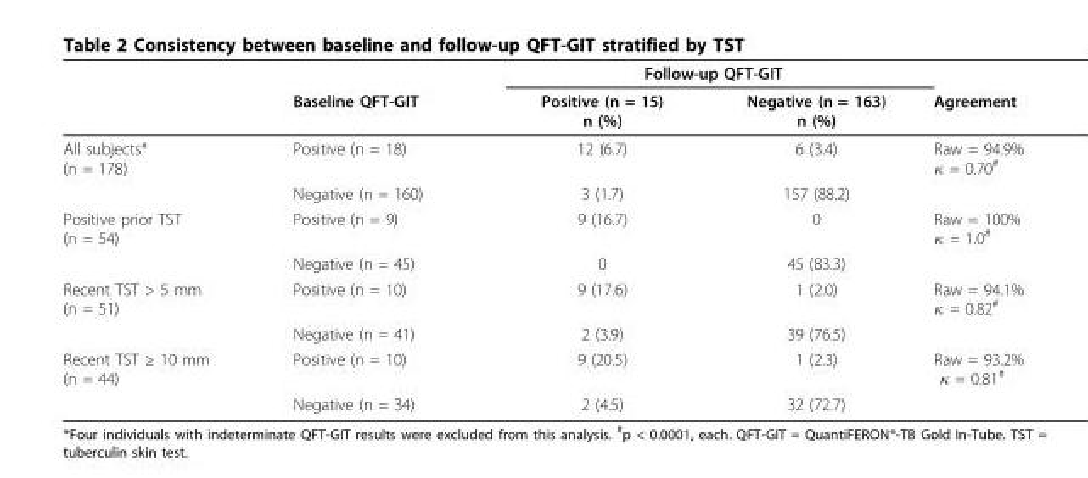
<table><thead><tr><td rowspan="2"></td><td rowspan="2">Baseline QFT-GIT</td><td colspan="2">Follow-up QFT-GIT</td><td rowspan="2">Agreement</td></tr><tr><td>Positive (n = 15) n (%)</td><td>Negative (n = 163) n (%)</td></tr></thead><tbody><tr><td rowspan="2">All subjects* (n = 178)</td><td>Positive (n = 18)</td><td>12 (6.7)</td><td>6 (3.4)</td><td>Raw = 94.9% κ = 0.70<sup>#</sup></td></tr><tr><td>Negative (n = 160)</td><td>3 (1.7)</td><td>157 (88.2)</td><td></td></tr><tr><td rowspan="2">Positive prior TST (n = 54)</td><td>Positive (n = 9)</td><td>9 (16.7)</td><td>0</td><td>Raw = 100% κ = 1.0<sup>#</sup></td></tr><tr><td>Negative (n = 45)</td><td>0</td><td>45 (83.3)</td><td></td></tr><tr><td rowspan="2">Recent TST &gt; 5 mm (n = 51)</td><td>Positive (n = 10)</td><td>9 (17.6)</td><td>1 (2.0)</td><td>Raw = 94.1% κ = 0.82<sup>#</sup></td></tr><tr><td>Negative (n = 41)</td><td>2 (3.9)</td><td>39 (76.5)</td><td></td></tr><tr><td rowspan="2">Recent TST ≥ 10 mm (n = 44)</td><td>Positive (n = 10)</td><td>9 (20.5)</td><td>1 (2.3)</td><td>Raw = 93.2% κ = 0.81<sup>#</sup></td></tr><tr><td>Negative (n = 34)</td><td>2 (4.5)</td><td>32 (72.7)</td><td></td></tr></tbody></table>